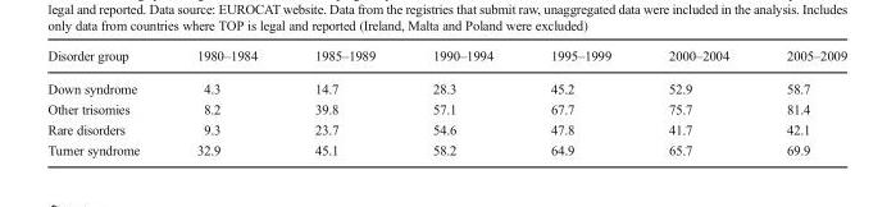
<table><thead><tr><td>Disorder group</td><td>1980–1984</td><td>1985–1989</td><td>1990–1994</td><td>1995–1999</td><td>2000–2004</td><td>2005–2009</td></tr></thead><tbody><tr><td>Down syndrome</td><td>4.3</td><td>14.7</td><td>28.3</td><td>45.2</td><td>52.9</td><td>58.7</td></tr><tr><td>Other trisomies</td><td>8.2</td><td>39.8</td><td>57.1</td><td>67.7</td><td>75.7</td><td>81.4</td></tr><tr><td>Rare disorders</td><td>9.3</td><td>23.7</td><td>54.6</td><td>47.8</td><td>41.7</td><td>42.1</td></tr><tr><td>Turner syndrome</td><td>32.9</td><td>45.1</td><td>58.2</td><td>64.9</td><td>65.7</td><td>69.9</td></tr></tbody></table>